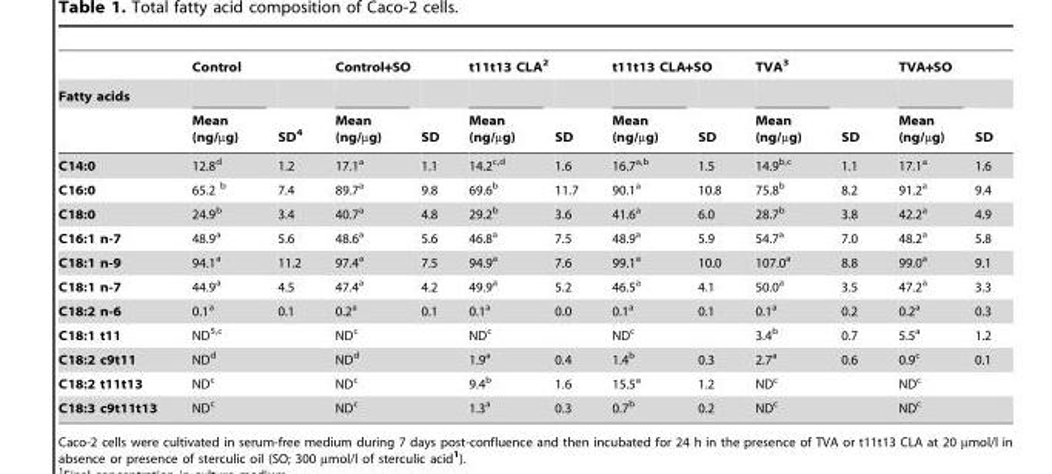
<table><thead><tr><td rowspan="3">Fatty acids</td><td colspan="2">Control</td><td colspan="2">Control+SO</td><td colspan="2">t11t13 CLA<sup>2</sup></td><td colspan="2">t11t13 CLA+SO</td><td colspan="2">TVA<sup>3</sup></td><td colspan="2">TVA+SO</td></tr><tr><td rowspan="2">Mean (ng/µg)</td><td rowspan="2">SD<sup>4</sup></td><td rowspan="2">Mean (ng/µg)</td><td rowspan="2">SD</td><td rowspan="2">Mean (ng/µg)</td><td rowspan="2">SD</td><td rowspan="2">Mean (ng/µg)</td><td rowspan="2">SD</td><td rowspan="2">Mean (ng/µg)</td><td rowspan="2">SD</td><td rowspan="2">Mean (ng/µg)</td><td rowspan="2">SD</td></tr><tr></tr></thead><tbody><tr><td>C14:0</td><td>12.8<sup>d</sup></td><td>1.2</td><td>17.1<sup>a</sup></td><td>1.1</td><td>14.2<sup>c,d</sup></td><td>1.6</td><td>16.7<sup>a,b</sup></td><td>1.5</td><td>14.9<sup>b,c</sup></td><td>1.1</td><td>17.1<sup>a</sup></td><td>1.6</td></tr><tr><td>C16:0</td><td>65.2 <sup>b</sup></td><td>7.4</td><td>89.7<sup>a</sup></td><td>9.8</td><td>69.6<sup>b</sup></td><td>11.7</td><td>90.1<sup>a</sup></td><td>10.8</td><td>75.8<sup>b</sup></td><td>8.2</td><td>91.2<sup>a</sup></td><td>9.4</td></tr><tr><td>C18:0</td><td>24.9<sup>b</sup></td><td>3.4</td><td>40.7<sup>a</sup></td><td>4.8</td><td>29.2<sup>b</sup></td><td>3.6</td><td>41.6<sup>a</sup></td><td>6.0</td><td>28.7<sup>b</sup></td><td>3.8</td><td>42.2<sup>a</sup></td><td>4.9</td></tr><tr><td>C16:1 n-7</td><td>48.9<sup>a</sup></td><td>5.6</td><td>48.6<sup>a</sup></td><td>5.6</td><td>46.8<sup>a</sup></td><td>7.5</td><td>48.9<sup>a</sup></td><td>5.9</td><td>54.7<sup>a</sup></td><td>7.0</td><td>48.2<sup>a</sup></td><td>5.8</td></tr><tr><td>C18:1 n-9</td><td>94.1<sup>a</sup></td><td>11.2</td><td>97.4<sup>a</sup></td><td>7.5</td><td>94.9<sup>a</sup></td><td>7.6</td><td>99.1<sup>a</sup></td><td>10.0</td><td>107.0<sup>a</sup></td><td>8.8</td><td>99.0<sup>a</sup></td><td>9.1</td></tr><tr><td>C18:1 n-7</td><td>44.9<sup>a</sup></td><td>4.5</td><td>47.4<sup>a</sup></td><td>4.2</td><td>49.9<sup>a</sup></td><td>5.2</td><td>46.5<sup>a</sup></td><td>4.1</td><td>50.0<sup>a</sup></td><td>3.5</td><td>47.2<sup>a</sup></td><td>3.3</td></tr><tr><td>C18:2 n-6</td><td>0.1<sup>a</sup></td><td>0.1</td><td>0.2<sup>a</sup></td><td>0.1</td><td>0.1<sup>a</sup></td><td>0.0</td><td>0.1<sup>a</sup></td><td>0.1</td><td>0.1<sup>a</sup></td><td>0.2</td><td>0.2<sup>a</sup></td><td>0.3</td></tr><tr><td>C18:1 t11</td><td colspan="2">ND<sup>5,c</sup></td><td colspan="2">ND<sup>c</sup></td><td colspan="2">ND<sup>c</sup></td><td colspan="2">ND<sup>c</sup></td><td>3.4<sup>b</sup></td><td>0.7</td><td>5.5<sup>a</sup></td><td>1.2</td></tr><tr><td>C18:2 c9t11</td><td colspan="2">ND<sup>d</sup></td><td colspan="2">ND<sup>d</sup></td><td>1.9<sup>a</sup></td><td>0.4</td><td>1.4<sup>b</sup></td><td>0.3</td><td>2.7<sup>a</sup></td><td>0.6</td><td>0.9<sup>c</sup></td><td>0.1</td></tr><tr><td>C18:2 t11t13</td><td colspan="2">ND<sup>c</sup></td><td colspan="2">ND<sup>c</sup></td><td>9.4<sup>b</sup></td><td>1.6</td><td>15.5<sup>a</sup></td><td>1.2</td><td colspan="2">ND<sup>c</sup></td><td colspan="2">ND<sup>c</sup></td></tr><tr><td>C18:3 c9t11t13</td><td colspan="2">ND<sup>c</sup></td><td colspan="2">ND<sup>c</sup></td><td>1.3<sup>a</sup></td><td>0.3</td><td>0.7<sup>b</sup></td><td>0.2</td><td colspan="2">ND<sup>c</sup></td><td colspan="2">ND<sup>c</sup></td></tr></tbody></table>